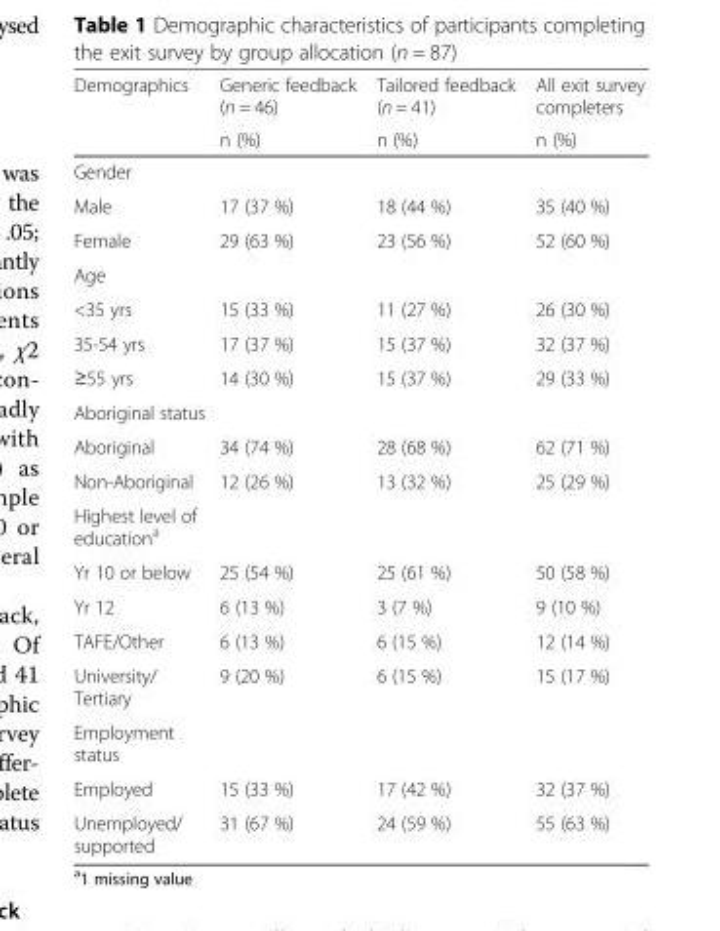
<table><thead><tr><td rowspan="2">Demographics</td><td rowspan="2">Generic feedback (n = 46) n (%)</td><td rowspan="2">Tailored feedback (n = 41) n (%)</td><td rowspan="2">All exit survey completers n (%)</td></tr><tr></tr></thead><tbody><tr><td colspan="4">Gender</td></tr><tr><td>Male</td><td>17 (37 %)</td><td>18 (44 %)</td><td>35 (40 %)</td></tr><tr><td>Female</td><td>29 (63 %)</td><td>23 (56 %)</td><td>52 (60 %)</td></tr><tr><td colspan="4">Age</td></tr><tr><td>&lt;35 yrs</td><td>15 (33 %)</td><td>11 (27 %)</td><td>26 (30 %)</td></tr><tr><td>35-54 yrs</td><td>17 (37 %)</td><td>15 (37 %)</td><td>32 (37 %)</td></tr><tr><td>≥55 yrs</td><td>14 (30 %)</td><td>15 (37 %)</td><td>29 (33 %)</td></tr><tr><td colspan="4">Aboriginal status</td></tr><tr><td>Aboriginal</td><td>34 (74 %)</td><td>28 (68 %)</td><td>62 (71 %)</td></tr><tr><td>Non-Aboriginal</td><td>12 (26 %)</td><td>13 (32 %)</td><td>25 (29 %)</td></tr><tr><td colspan="4">Highest level of education<sup>a</sup></td></tr><tr><td>Yr 10 or below</td><td>25 (54 %)</td><td>25 (61 %)</td><td>50 (58 %)</td></tr><tr><td>Yr 12</td><td>6 (13 %)</td><td>3 (7 %)</td><td>9 (10 %)</td></tr><tr><td>TAFE/Other</td><td>6 (13 %)</td><td>6 (15 %)</td><td>12 (14 %)</td></tr><tr><td>University/ Tertiary</td><td>9 (20 %)</td><td>6 (15 %)</td><td>15 (17 %)</td></tr><tr><td colspan="4">Employment status</td></tr><tr><td>Employed</td><td>15 (33 %)</td><td>17 (42 %)</td><td>32 (37 %)</td></tr><tr><td>Unemployed/ supported</td><td>31 (67 %)</td><td>24 (59 %)</td><td>55 (63 %)</td></tr></tbody></table>